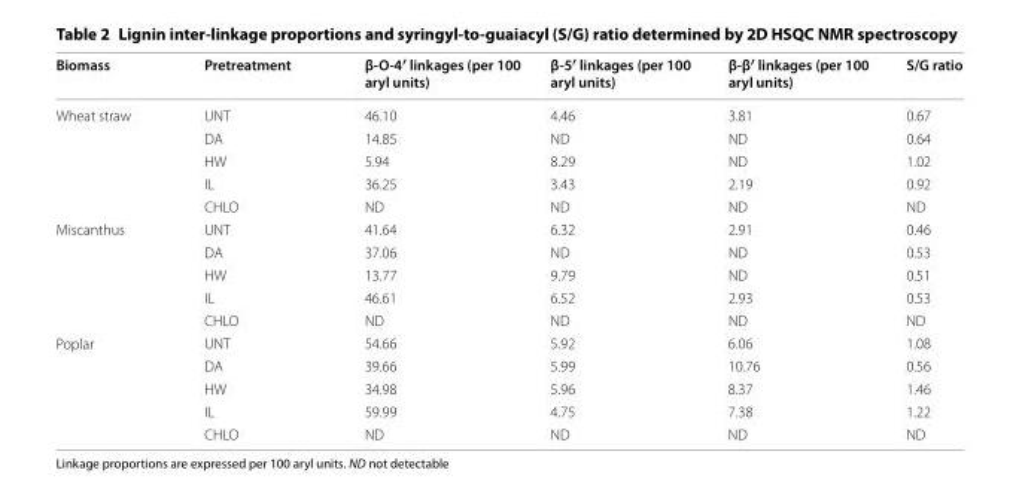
<table><thead><tr><td>Biomass</td><td>Pretreatment</td><td>β-O-4′ linkages (per 100 aryl units)</td><td>β-5′ linkages (per 100 aryl units)</td><td>β-β′ linkages (per 100 aryl units)</td><td>S/G ratio</td></tr></thead><tbody><tr><td rowspan="5">Wheat straw</td><td>UNT</td><td>46.10</td><td>4.46</td><td>3.81</td><td>0.67</td></tr><tr><td>DA</td><td>14.85</td><td>ND</td><td>ND</td><td>0.64</td></tr><tr><td>HW</td><td>5.94</td><td>8.29</td><td>ND</td><td>1.02</td></tr><tr><td>IL</td><td>36.25</td><td>3.43</td><td>2.19</td><td>0.92</td></tr><tr><td>CHLO</td><td>ND</td><td>ND</td><td>ND</td><td>ND</td></tr><tr><td rowspan="5">Miscanthus</td><td>UNT</td><td>41.64</td><td>6.32</td><td>2.91</td><td>0.46</td></tr><tr><td>DA</td><td>37.06</td><td>ND</td><td>ND</td><td>0.53</td></tr><tr><td>HW</td><td>13.77</td><td>9.79</td><td>ND</td><td>0.51</td></tr><tr><td>IL</td><td>46.61</td><td>6.52</td><td>2.93</td><td>0.53</td></tr><tr><td>CHLO</td><td>ND</td><td>ND</td><td>ND</td><td>ND</td></tr><tr><td rowspan="5">Poplar</td><td>UNT</td><td>54.66</td><td>5.92</td><td>6.06</td><td>1.08</td></tr><tr><td>DA</td><td>39.66</td><td>5.99</td><td>10.76</td><td>0.56</td></tr><tr><td>HW</td><td>34.98</td><td>5.96</td><td>8.37</td><td>1.46</td></tr><tr><td>IL</td><td>59.99</td><td>4.75</td><td>7.38</td><td>1.22</td></tr><tr><td>CHLO</td><td>ND</td><td>ND</td><td>ND</td><td>ND</td></tr></tbody></table>